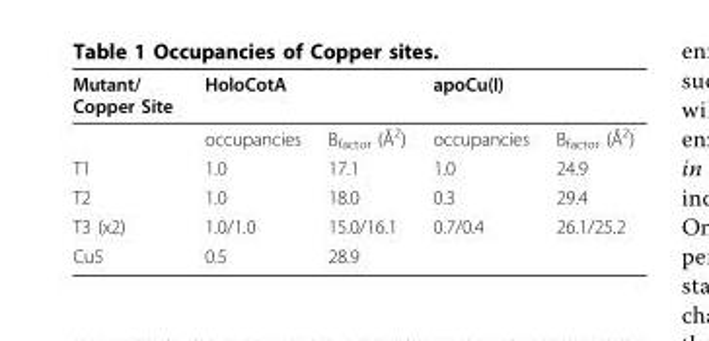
<table><thead><tr><td rowspan="2">Mutant/ Copper Site</td><td colspan="2">HoloCotA</td><td colspan="2">apoCu(I)</td></tr><tr><td>occupancies</td><td>B<sub>factor</sub> (Å<sup>2</sup>)</td><td>occupancies</td><td>B<sub>factor</sub> (Å<sup>2</sup>)</td></tr></thead><tbody><tr><td>T1</td><td>1.0</td><td>17.1</td><td>1.0</td><td>24.9</td></tr><tr><td>T2</td><td>1.0</td><td>18.0</td><td>0.3</td><td>29.4</td></tr><tr><td>T3 (x2)</td><td>1.0/1.0</td><td>15.0/16.1</td><td>0.7/0.4</td><td>26.1/25.2</td></tr><tr><td>Cu5</td><td>0.5</td><td>28.9</td><td></td><td></td></tr></tbody></table>